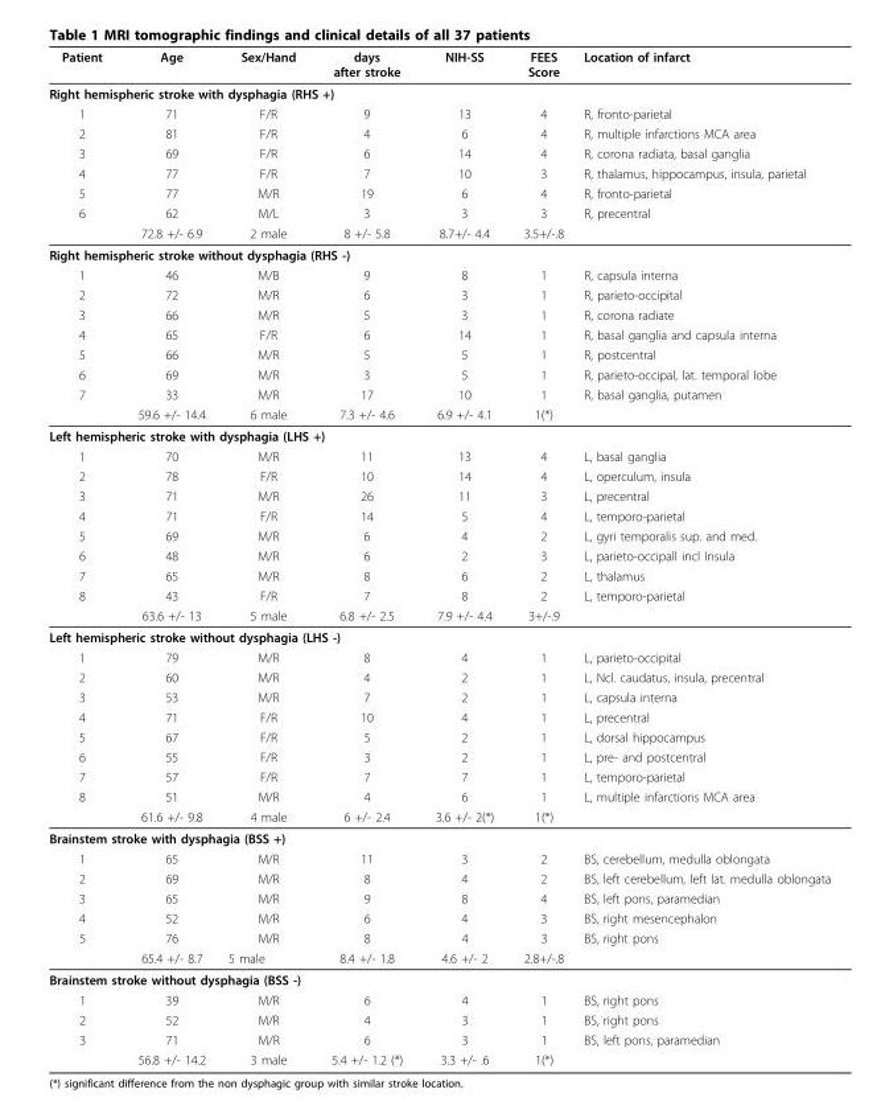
<table><thead><tr><td>Patient</td><td>Age</td><td>Sex/Hand</td><td>days after stroke</td><td>NIH-SS</td><td>FEES Score</td><td>Location of infarct</td></tr></thead><tbody><tr><td colspan="7">Right hemispheric stroke with dysphagia (RHS +)</td></tr><tr><td>1</td><td>71</td><td>F/R</td><td>9</td><td>13</td><td>4</td><td>R, fronto-parietal</td></tr><tr><td>2</td><td>81</td><td>F/R</td><td>4</td><td>6</td><td>4</td><td>R, multiple infarctions MCA area</td></tr><tr><td>3</td><td>69</td><td>F/R</td><td>6</td><td>14</td><td>4</td><td>R, corona radiata, basal ganglia</td></tr><tr><td>4</td><td>77</td><td>F/R</td><td>7</td><td>10</td><td>3</td><td>R, thalamus, hippocampus, insula, parietal</td></tr><tr><td>5</td><td>77</td><td>M/R</td><td>19</td><td>6</td><td>4</td><td>R, fronto-parietal</td></tr><tr><td rowspan="2">6</td><td>62</td><td>M/L</td><td>3</td><td>3</td><td>3</td><td>R, precentral</td></tr><tr><td>72.8 +/- 6.9</td><td>2 male</td><td>8 +/- 5.8</td><td>8.7+/- 4.4</td><td>3.5+/-.8</td><td></td></tr><tr><td colspan="7">Right hemispheric stroke without dysphagia (RHS -)</td></tr><tr><td>1</td><td>46</td><td>M/B</td><td>9</td><td>8</td><td>1</td><td>R, capsula interna</td></tr><tr><td>2</td><td>72</td><td>M/R</td><td>6</td><td>3</td><td>1</td><td>R, parieto-occipital</td></tr><tr><td>3</td><td>66</td><td>M/R</td><td>5</td><td>3</td><td>1</td><td>R, corona radiate</td></tr><tr><td>4</td><td>65</td><td>F/R</td><td>6</td><td>14</td><td>1</td><td>R, basal ganglia and capsula interna</td></tr><tr><td>5</td><td>66</td><td>M/R</td><td>5</td><td>5</td><td>1</td><td>R, postcentral</td></tr><tr><td>6</td><td>69</td><td>M/R</td><td>3</td><td>5</td><td>1</td><td>R, parieto-occipal, lat. temporal lobe</td></tr><tr><td rowspan="2">7</td><td>33</td><td>M/R</td><td>17</td><td>10</td><td>1</td><td>R, basal ganglia, putamen</td></tr><tr><td>59.6 +/- 14.4</td><td>6 male</td><td>7.3 +/- 4.6</td><td>6.9 +/- 4.1</td><td>1(*)</td><td></td></tr><tr><td colspan="7">Left hemispheric stroke with dysphagia (LHS +)</td></tr><tr><td>1</td><td>70</td><td>M/R</td><td>11</td><td>13</td><td>4</td><td>L, basal ganglia</td></tr><tr><td>2</td><td>78</td><td>F/R</td><td>10</td><td>14</td><td>4</td><td>L, operculum, insula</td></tr><tr><td>3</td><td>71</td><td>M/R</td><td>26</td><td>11</td><td>3</td><td>L, precentral</td></tr><tr><td>4</td><td>71</td><td>F/R</td><td>14</td><td>5</td><td>4</td><td>L, temporo-parietal</td></tr><tr><td>5</td><td>69</td><td>M/R</td><td>6</td><td>4</td><td>2</td><td>L, gyri temporalis sup. and med.</td></tr><tr><td>6</td><td>48</td><td>M/R</td><td>6</td><td>2</td><td>3</td><td>L, parieto-occipall incl Insula</td></tr><tr><td>7</td><td>65</td><td>M/R</td><td>8</td><td>6</td><td>2</td><td>L, thalamus</td></tr><tr><td rowspan="2">8</td><td>43</td><td>F/R</td><td>7</td><td>8</td><td>2</td><td>L, temporo-parietal</td></tr><tr><td>63.6 +/- 13</td><td>5 male</td><td>6.8 +/- 2.5</td><td>7.9 +/- 4.4</td><td>3+/-.9</td><td></td></tr><tr><td colspan="7">Left hemispheric stroke without dysphagia (LHS -)</td></tr><tr><td>1</td><td>79</td><td>M/R</td><td>8</td><td>4</td><td>1</td><td>L, parieto-occipital</td></tr><tr><td>2</td><td>60</td><td>M/R</td><td>4</td><td>2</td><td>1</td><td>L, Ncl. caudatus, insula, precentral</td></tr><tr><td>3</td><td>53</td><td>M/R</td><td>7</td><td>2</td><td>1</td><td>L, capsula interna</td></tr><tr><td>4</td><td>71</td><td>F/R</td><td>10</td><td>4</td><td>1</td><td>L, precentral</td></tr><tr><td>5</td><td>67</td><td>F/R</td><td>5</td><td>2</td><td>1</td><td>L, dorsal hippocampus</td></tr><tr><td>6</td><td>55</td><td>F/R</td><td>3</td><td>2</td><td>1</td><td>L, pre- and postcentral</td></tr><tr><td>7</td><td>57</td><td>F/R</td><td>7</td><td>7</td><td>1</td><td>L, temporo-parietal</td></tr><tr><td rowspan="2">8</td><td>51</td><td>M/R</td><td>4</td><td>6</td><td>1</td><td>L, multiple infarctions MCA area</td></tr><tr><td>61.6 +/- 9.8</td><td>4 male</td><td>6 +/- 2.4</td><td>3.6 +/- 2(*)</td><td>1(*)</td><td></td></tr><tr><td colspan="7">Brainstem stroke with dysphagia (BSS +)</td></tr><tr><td>1</td><td>65</td><td>M/R</td><td>11</td><td>3</td><td>2</td><td>BS, cerebellum, medulla oblongata</td></tr><tr><td>2</td><td>69</td><td>M/R</td><td>8</td><td>4</td><td>2</td><td>BS, left cerebellum, left lat. medulla oblongata</td></tr><tr><td>3</td><td>65</td><td>M/R</td><td>9</td><td>8</td><td>4</td><td>BS, left pons, paramedian</td></tr><tr><td>4</td><td>52</td><td>M/R</td><td>6</td><td>4</td><td>3</td><td>BS, right mesencephalon</td></tr><tr><td rowspan="2">5</td><td>76</td><td>M/R</td><td>8</td><td>4</td><td>3</td><td>BS, right pons</td></tr><tr><td>65.4 +/- 8.7</td><td>5 male</td><td>8.4 +/- 1.8</td><td>4.6 +/- 2</td><td>2.8+/-.8</td><td></td></tr><tr><td colspan="7">Brainstem stroke without dysphagia (BSS -)</td></tr><tr><td>1</td><td>39</td><td>M/R</td><td>6</td><td>4</td><td>1</td><td>BS, right pons</td></tr><tr><td>2</td><td>52</td><td>M/R</td><td>4</td><td>3</td><td>1</td><td>BS, right pons</td></tr><tr><td rowspan="2">3</td><td>71</td><td>M/R</td><td>6</td><td>3</td><td>1</td><td>BS, left pons, paramedian</td></tr><tr><td>56.8 +/- 14.2</td><td>3 male</td><td>5.4 +/- 1.2 (*)</td><td>3.3 +/- .6</td><td>1(*)</td><td></td></tr></tbody></table>